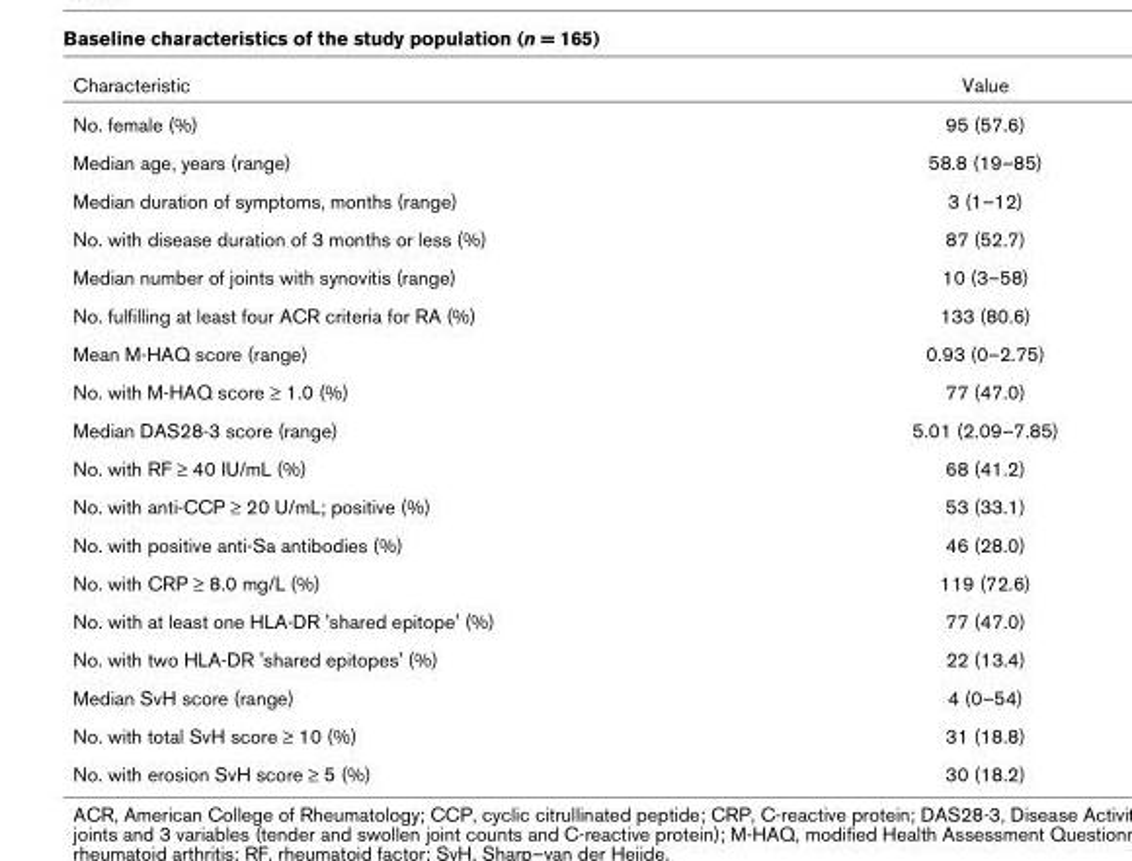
<table><thead><tr><td>Characteristic</td><td>Value</td></tr></thead><tbody><tr><td>No. female (%)</td><td>95 (57.6)</td></tr><tr><td>Median age, years (range)</td><td>58.8 (19–85)</td></tr><tr><td>Median duration of symptoms, months (range)</td><td>3 (1–12)</td></tr><tr><td>No. with disease duration of 3 months or less (%)</td><td>87 (52.7)</td></tr><tr><td>Median number of joints with synovitis (range)</td><td>10 (3–58)</td></tr><tr><td>No. fulfilling at least four ACR criteria for RA (%)</td><td>133 (80.6)</td></tr><tr><td>Mean M-HAQ score (range)</td><td>0.93 (0–2.75)</td></tr><tr><td>No. with M-HAQ score ≥ 1.0 (%)</td><td>77 (47.0)</td></tr><tr><td>Median DAS28-3 score (range)</td><td>5.01 (2.09–7.85)</td></tr><tr><td>No. with RF ≥ 40 IU/mL (%)</td><td>68 (41.2)</td></tr><tr><td>No. with anti-CCP ≥ 20 U/mL; positive (%)</td><td>53 (33.1)</td></tr><tr><td>No. with positive anti-Sa antibodies (%)</td><td>46 (28.0)</td></tr><tr><td>No. with CRP ≥ 8.0 mg/L (%)</td><td>119 (72.6)</td></tr><tr><td>No. with at least one HLA-DR &#x27;shared epitope&#x27; (%)</td><td>77 (47.0)</td></tr><tr><td>No. with two HLA-DR &#x27;shared epitopes&#x27; (%)</td><td>22 (13.4)</td></tr><tr><td>Median SvH score (range)</td><td>4 (0–54)</td></tr><tr><td>No. with total SvH score ≥ 10 (%)</td><td>31 (18.8)</td></tr><tr><td>No. with erosion SvH score ≥ 5 (%)</td><td>30 (18.2)</td></tr></tbody></table>